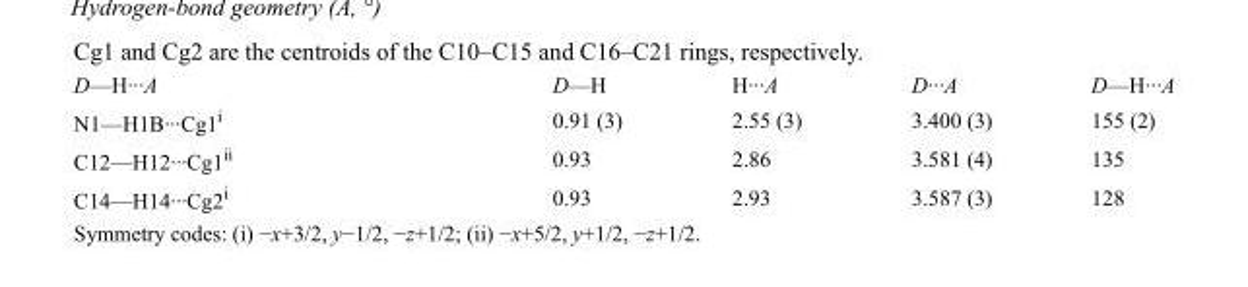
<table><tbody><tr><td>D—H···A</td><td>D—H</td><td>H···A</td><td>D···A</td><td>D—H···A</td></tr><tr><td>N1—H1B···Cg1<sup>i</sup></td><td>0.91 (3)</td><td>2.55 (3)</td><td>3.400 (3)</td><td>155 (2)</td></tr><tr><td>C12—H12···Cg1<sup>ii</sup></td><td>0.93</td><td>2.86</td><td>3.581 (4)</td><td>135</td></tr><tr><td>C14—H14···Cg2<sup>i</sup></td><td>0.93</td><td>2.93</td><td>3.587 (3)</td><td>128</td></tr></tbody></table>